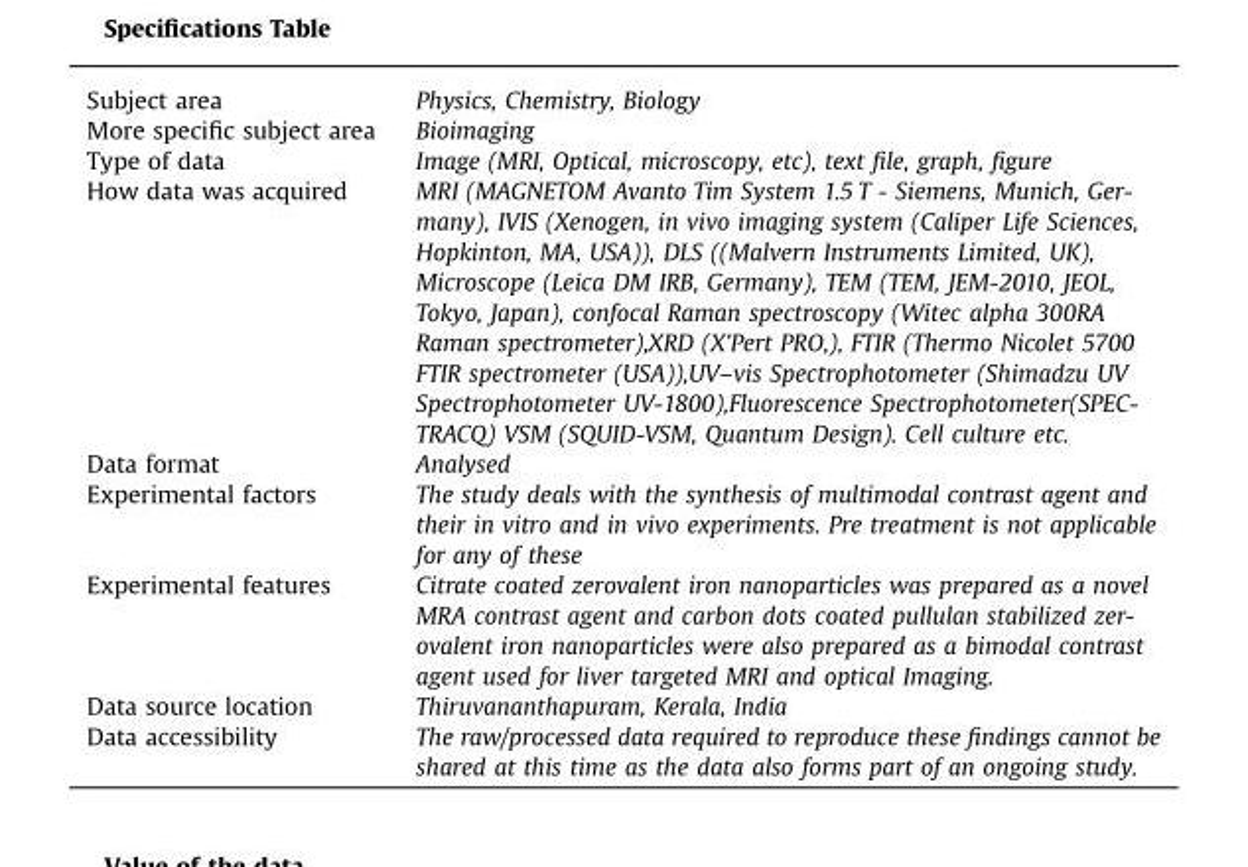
<table><tbody><tr><td>Subject area</td><td>Physics, Chemistry, Biology</td></tr><tr><td>More specific subject area</td><td>Bioimaging</td></tr><tr><td>Type of data</td><td>Image (MRI, Optical, microscopy, etc), text file, graph, figure</td></tr><tr><td>How data was acquired</td><td>MRI (MAGNETOM Avanto Tim System 1.5 T - Siemens, Munich, Ger- many), IVIS (Xenogen, in vivo imaging system (Caliper Life Sciences, Hopkinton, MA, USA)), DLS ((Malvern Instruments Limited, UK), Microscope (Leica DM IRB, Germany), TEM (TEM, JEM-2010, JEOL, Tokyo, Japan), confocal Raman spectroscopy (Witec alpha 300RA Raman spectrometer),XRD (X’Pert PRO,), FTIR (Thermo Nicolet 5700 FTIR spectrometer (USA)),UV–vis Spectrophotometer (Shimadzu UV Spectrophotometer UV-1800),Fluorescence Spectrophotometer(SPEC- TRACQ) VSM (SQUID-VSM, Quantum Design). Cell culture etc.</td></tr><tr><td>Data format</td><td>Analysed</td></tr><tr><td>Experimental factors</td><td>The study deals with the synthesis of multimodal contrast agent and their in vitro and in vivo experiments. Pre treatment is not applicable for any of these</td></tr><tr><td>Experimental features</td><td>Citrate coated zerovalent iron nanoparticles was prepared as a novel MRA contrast agent and carbon dots coated pullulan stabilized zer- ovalent iron nanoparticles were also prepared as a bimodal contrast agent used for liver targeted MRI and optical Imaging.</td></tr><tr><td>Data source location</td><td>Thiruvananthapuram, Kerala, India</td></tr><tr><td>Data accessibility</td><td>The raw/processed data required to reproduce these findings cannot be shared at this time as the data also forms part of an ongoing study.</td></tr></tbody></table>